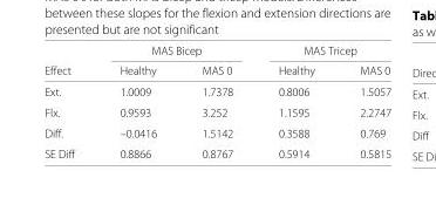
<table><thead><tr><td rowspan="2">Effect</td><td colspan="2">MAS Bicep</td><td colspan="2">MAS Tricep</td></tr><tr><td>Healthy</td><td>MAS 0</td><td>Healthy</td><td>MAS 0</td></tr></thead><tbody><tr><td>Ext.</td><td>1.0009</td><td>1.7378</td><td>0.8006</td><td>1.5057</td></tr><tr><td>Flx.</td><td>0.9593</td><td>3.252</td><td>1.1595</td><td>2.2747</td></tr><tr><td>Diff.</td><td>–0.0416</td><td>1.5142</td><td>0.3588</td><td>0.769</td></tr><tr><td>SE Diff</td><td>0.8866</td><td>0.8767</td><td>0.5914</td><td>0.5815</td></tr></tbody></table>